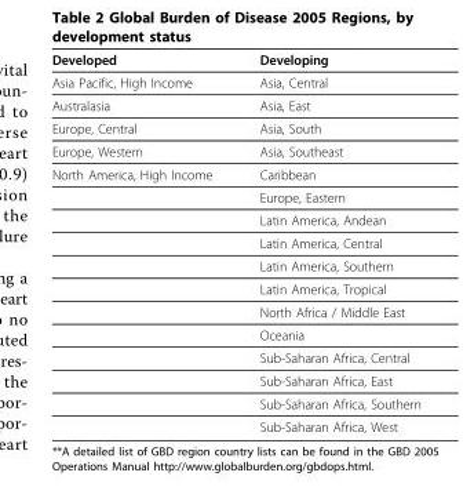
<table><thead><tr><td>Developed</td><td>Developing</td></tr></thead><tbody><tr><td>Asia Pacific, High Income</td><td>Asia, Central</td></tr><tr><td>Australasia</td><td>Asia, East</td></tr><tr><td>Europe, Central</td><td>Asia, South</td></tr><tr><td>Europe, Western</td><td>Asia, Southeast</td></tr><tr><td rowspan="12">North America, High Income</td><td>Caribbean</td></tr><tr><td>Europe, Eastern</td></tr><tr><td>Latin America, Andean</td></tr><tr><td>Latin America, Central</td></tr><tr><td>Latin America, Southern</td></tr><tr><td>Latin America, Tropical</td></tr><tr><td>North Africa / Middle East</td></tr><tr><td>Oceania</td></tr><tr><td>Sub-Saharan Africa, Central</td></tr><tr><td>Sub-Saharan Africa, East</td></tr><tr><td>Sub-Saharan Africa, Southern</td></tr><tr><td>Sub-Saharan Africa, West</td></tr></tbody></table>